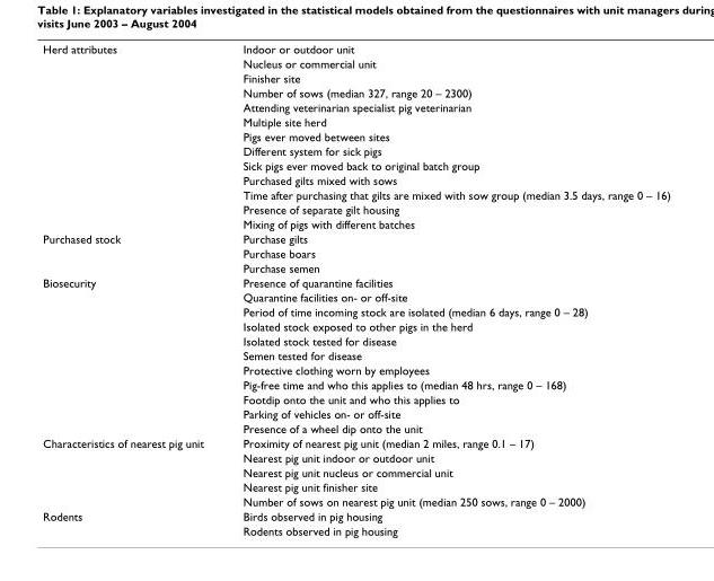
<table><tbody><tr><td rowspan="13">Herd attributes</td><td>Indoor or outdoor unit</td></tr><tr><td>Nucleus or commercial unit</td></tr><tr><td>Finisher site</td></tr><tr><td>Number of sows (median 327, range 20 – 2300)</td></tr><tr><td>Attending veterinarian specialist pig veterinarian</td></tr><tr><td>Multiple site herd</td></tr><tr><td>Pigs ever moved between sites</td></tr><tr><td>Different system for sick pigs</td></tr><tr><td>Sick pigs ever moved back to original batch group</td></tr><tr><td>Purchased gilts mixed with sows</td></tr><tr><td>Time after purchasing that gilts are mixed with sow group (median 3.5 days, range 0 – 16)</td></tr><tr><td>Presence of separate gilt housing</td></tr><tr><td>Mixing of pigs with different batches</td></tr><tr><td rowspan="3">Purchased stock</td><td>Purchase gilts</td></tr><tr><td>Purchase boars</td></tr><tr><td>Purchase semen</td></tr><tr><td rowspan="11">Biosecurity</td><td>Presence of quarantine facilities</td></tr><tr><td>Quarantine facilities on- or off-site</td></tr><tr><td>Period of time incoming stock are isolated (median 6 days, range 0 – 28)</td></tr><tr><td>Isolated stock exposed to other pigs in the herd</td></tr><tr><td>Isolated stock tested for disease</td></tr><tr><td>Semen tested for disease</td></tr><tr><td>Protective clothing worn by employees</td></tr><tr><td>Pig-free time and who this applies to (median 48 hrs, range 0 – 168)</td></tr><tr><td>Footdip onto the unit and who this applies to</td></tr><tr><td>Parking of vehicles on- or off-site</td></tr><tr><td>Presence of a wheel dip onto the unit</td></tr><tr><td rowspan="5">Characteristics of nearest pig unit</td><td>Proximity of nearest pig unit (median 2 miles, range 0.1 – 17)</td></tr><tr><td>Nearest pig unit indoor or outdoor unit</td></tr><tr><td>Nearest pig unit nucleus or commercial unit</td></tr><tr><td>Nearest pig unit finisher site</td></tr><tr><td>Number of sows on nearest pig unit (median 250 sows, range 0 – 2000)</td></tr><tr><td rowspan="2">Rodents</td><td>Birds observed in pig housing</td></tr><tr><td>Rodents observed in pig housing</td></tr></tbody></table>